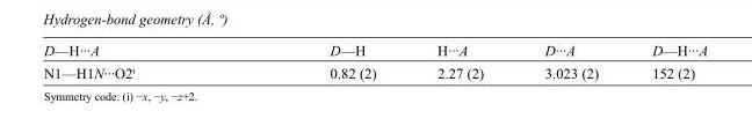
<table><tbody><tr><td>D—H···A</td><td>D—H</td><td>H···A</td><td>D···A</td><td>D—H···A</td></tr><tr><td>N1—H1N···O2<sup>i</sup></td><td>0.82 (2)</td><td>2.27 (2)</td><td>3.023 (2)</td><td>152 (2)</td></tr></tbody></table>